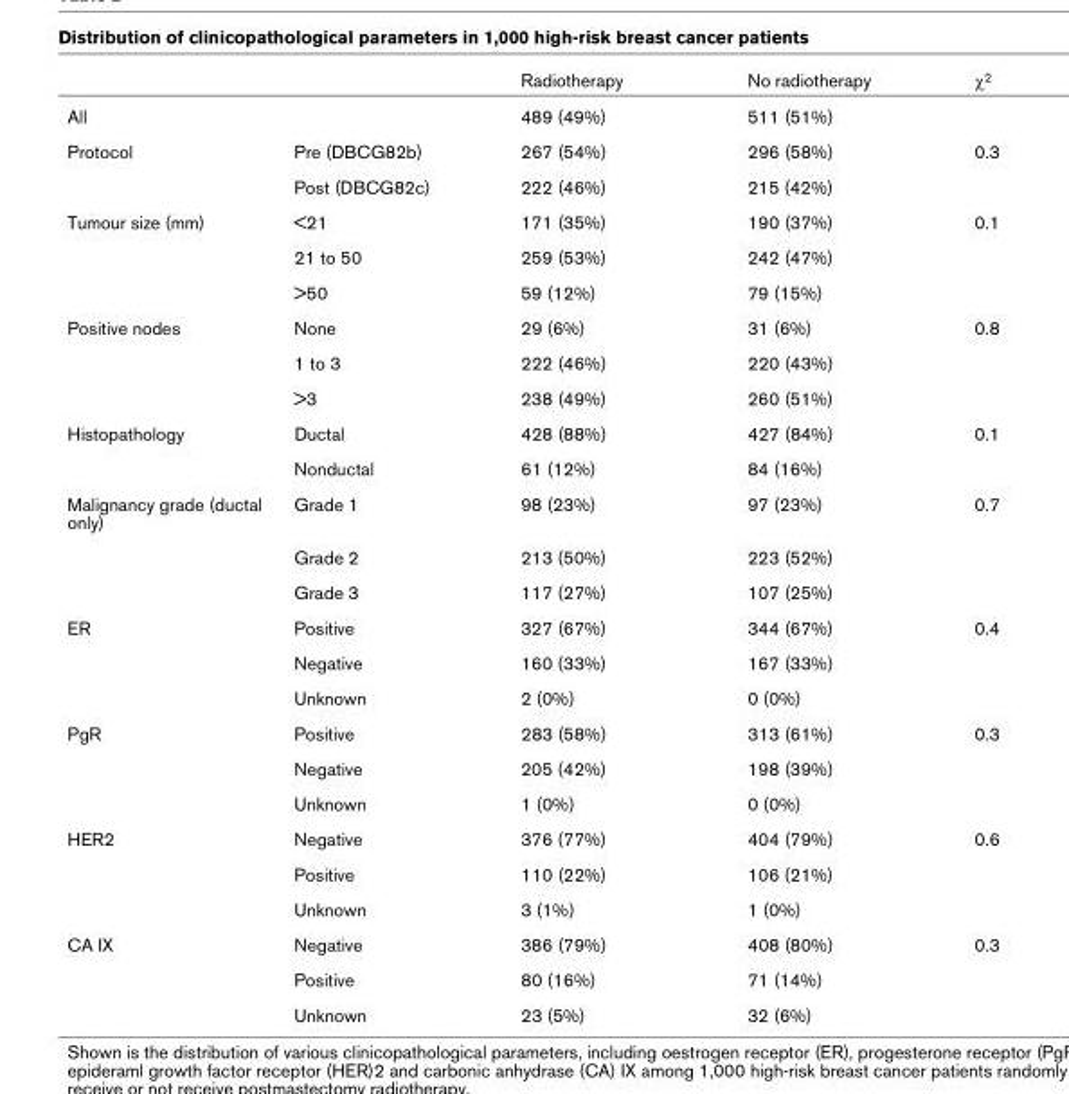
<table><thead><tr><td></td><td></td><td>Radiotherapy</td><td>No radiotherapy</td><td>χ<sup>2</sup></td></tr></thead><tbody><tr><td>All</td><td></td><td>489 (49%)</td><td>511 (51%)</td><td></td></tr><tr><td rowspan="2">Protocol</td><td>Pre (DBCG82b)</td><td>267 (54%)</td><td>296 (58%)</td><td>0.3</td></tr><tr><td>Post (DBCG82c)</td><td>222 (46%)</td><td>215 (42%)</td><td></td></tr><tr><td rowspan="3">Tumour size (mm)</td><td>&lt;21</td><td>171 (35%)</td><td>190 (37%)</td><td>0.1</td></tr><tr><td>21 to 50</td><td>259 (53%)</td><td>242 (47%)</td><td></td></tr><tr><td>&gt;50</td><td>59 (12%)</td><td>79 (15%)</td><td></td></tr><tr><td rowspan="3">Positive nodes</td><td>None</td><td>29 (6%)</td><td>31 (6%)</td><td>0.8</td></tr><tr><td>1 to 3</td><td>222 (46%)</td><td>220 (43%)</td><td></td></tr><tr><td>&gt;3</td><td>238 (49%)</td><td>260 (51%)</td><td></td></tr><tr><td rowspan="2">Histopathology</td><td>Ductal</td><td>428 (88%)</td><td>427 (84%)</td><td>0.1</td></tr><tr><td>Nonductal</td><td>61 (12%)</td><td>84 (16%)</td><td></td></tr><tr><td rowspan="3">Malignancy grade (ductal only)</td><td>Grade 1</td><td>98 (23%)</td><td>97 (23%)</td><td>0.7</td></tr><tr><td>Grade 2</td><td>213 (50%)</td><td>223 (52%)</td><td></td></tr><tr><td>Grade 3</td><td>117 (27%)</td><td>107 (25%)</td><td></td></tr><tr><td rowspan="3">ER</td><td>Positive</td><td>327 (67%)</td><td>344 (67%)</td><td>0.4</td></tr><tr><td>Negative</td><td>160 (33%)</td><td>167 (33%)</td><td></td></tr><tr><td>Unknown</td><td>2 (0%)</td><td>0 (0%)</td><td></td></tr><tr><td rowspan="3">PgR</td><td>Positive</td><td>283 (58%)</td><td>313 (61%)</td><td>0.3</td></tr><tr><td>Negative</td><td>205 (42%)</td><td>198 (39%)</td><td></td></tr><tr><td>Unknown</td><td>1 (0%)</td><td>0 (0%)</td><td></td></tr><tr><td rowspan="3">HER2</td><td>Negative</td><td>376 (77%)</td><td>404 (79%)</td><td>0.6</td></tr><tr><td>Positive</td><td>110 (22%)</td><td>106 (21%)</td><td></td></tr><tr><td>Unknown</td><td>3 (1%)</td><td>1 (0%)</td><td></td></tr><tr><td rowspan="3">CA IX</td><td>Negative</td><td>386 (79%)</td><td>408 (80%)</td><td>0.3</td></tr><tr><td>Positive</td><td>80 (16%)</td><td>71 (14%)</td><td></td></tr><tr><td>Unknown</td><td>23 (5%)</td><td>32 (6%)</td><td></td></tr></tbody></table>